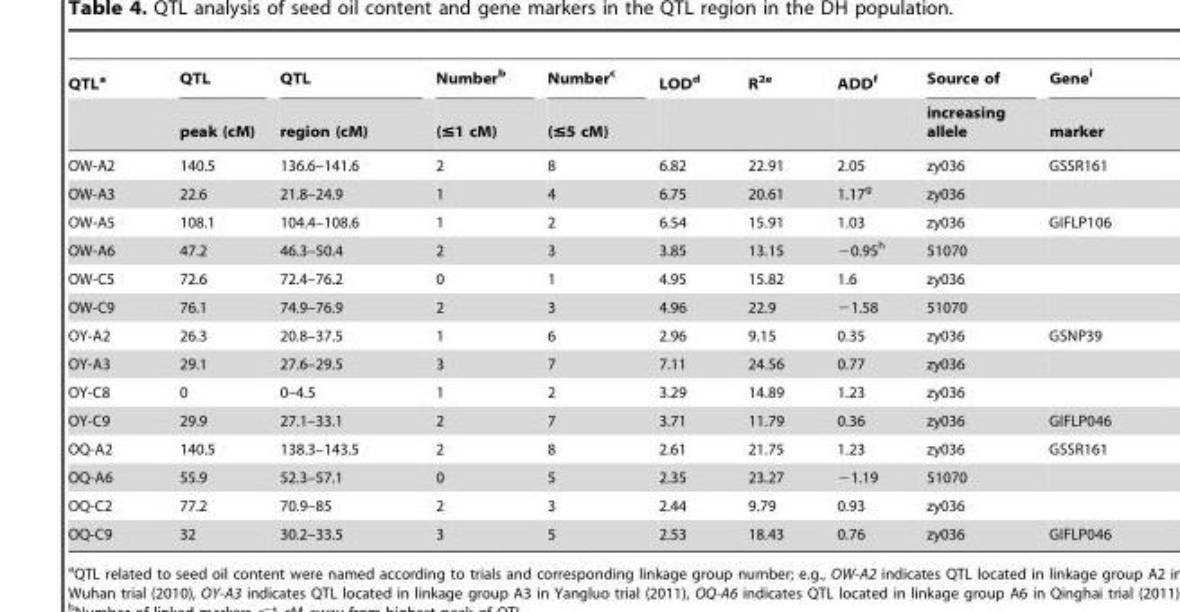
<table><thead><tr><td rowspan="2">QTL<sup>a</sup></td><td rowspan="2">QTL peak (cM)</td><td rowspan="2">QTL region (cM)</td><td rowspan="2">Number<sup>b</sup> (≤1 cM)</td><td rowspan="2">Number<sup>c</sup> (≤5 cM)</td><td rowspan="2">LOD<sup>d</sup></td><td rowspan="2">R<sup>2</sup>e</td><td rowspan="2">ADD<sup>f</sup></td><td rowspan="2">Source of increasing allele</td><td rowspan="2">Gene<sup>i</sup> marker</td></tr><tr></tr></thead><tbody><tr><td>OW-A2</td><td>140.5</td><td>136.6–141.6</td><td>2</td><td>8</td><td>6.82</td><td>22.91</td><td>2.05</td><td>zy036</td><td>GSSR161</td></tr><tr><td>OW-A3</td><td>22.6</td><td>21.8–24.9</td><td>1</td><td>4</td><td>6.75</td><td>20.61</td><td>1.17<sup>g</sup></td><td>zy036</td><td></td></tr><tr><td>OW-A5</td><td>108.1</td><td>104.4–108.6</td><td>1</td><td>2</td><td>6.54</td><td>15.91</td><td>1.03</td><td>zy036</td><td>GIFLP106</td></tr><tr><td>OW-A6</td><td>47.2</td><td>46.3–50.4</td><td>2</td><td>3</td><td>3.85</td><td>13.15</td><td>−0.95<sup>h</sup></td><td>51070</td><td></td></tr><tr><td>OW-C5</td><td>72.6</td><td>72.4–76.2</td><td>0</td><td>1</td><td>4.95</td><td>15.82</td><td>1.6</td><td>zy036</td><td></td></tr><tr><td>OW-C9</td><td>76.1</td><td>74.9–76.9</td><td>2</td><td>3</td><td>4.96</td><td>22.9</td><td>−1.58</td><td>51070</td><td></td></tr><tr><td>OY-A2</td><td>26.3</td><td>20.8–37.5</td><td>1</td><td>6</td><td>2.96</td><td>9.15</td><td>0.35</td><td>zy036</td><td>GSNP39</td></tr><tr><td>OY-A3</td><td>29.1</td><td>27.6–29.5</td><td>3</td><td>7</td><td>7.11</td><td>24.56</td><td>0.77</td><td>zy036</td><td></td></tr><tr><td>OY-C8</td><td>0</td><td>0–4.5</td><td>1</td><td>2</td><td>3.29</td><td>14.89</td><td>1.23</td><td>zy036</td><td></td></tr><tr><td>OY-C9</td><td>29.9</td><td>27.1–33.1</td><td>2</td><td>7</td><td>3.71</td><td>11.79</td><td>0.36</td><td>zy036</td><td>GIFLP046</td></tr><tr><td>OQ-A2</td><td>140.5</td><td>138.3–143.5</td><td>2</td><td>8</td><td>2.61</td><td>21.75</td><td>1.23</td><td>zy036</td><td>GSSR161</td></tr><tr><td>OQ-A6</td><td>55.9</td><td>52.3–57.1</td><td>0</td><td>5</td><td>2.35</td><td>23.27</td><td>−1.19</td><td>51070</td><td></td></tr><tr><td>OQ-C2</td><td>77.2</td><td>70.9–85</td><td>2</td><td>3</td><td>2.44</td><td>9.79</td><td>0.93</td><td>zy036</td><td></td></tr><tr><td>OQ-C9</td><td>32</td><td>30.2–33.5</td><td>3</td><td>5</td><td>2.53</td><td>18.43</td><td>0.76</td><td>zy036</td><td>GIFLP046</td></tr></tbody></table>